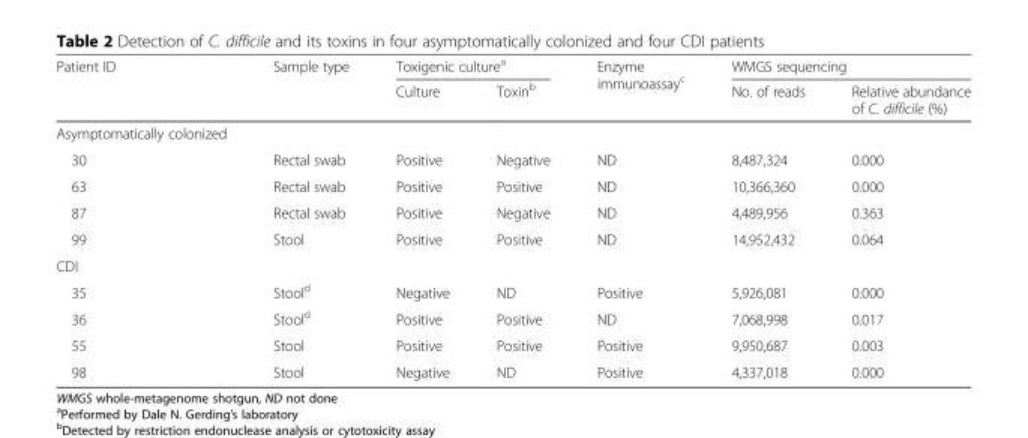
<table><thead><tr><td rowspan="2">Patient ID</td><td rowspan="2">Sample type</td><td colspan="2">Toxigenic culture<sup>a</sup></td><td rowspan="2">Enzyme immunoassay<sup>c</sup></td><td colspan="2">WMGS sequencing</td></tr><tr><td>Culture</td><td>Toxin<sup>b</sup></td><td>No. of reads</td><td>Relative abundance of C. difficile (%)</td></tr></thead><tbody><tr><td colspan="7">Asymptomatically colonized</td></tr><tr><td>30</td><td>Rectal swab</td><td>Positive</td><td>Negative</td><td>ND</td><td>8,487,324</td><td>0.000</td></tr><tr><td>63</td><td>Rectal swab</td><td>Positive</td><td>Positive</td><td>ND</td><td>10,366,360</td><td>0.000</td></tr><tr><td>87</td><td>Rectal swab</td><td>Positive</td><td>Negative</td><td>ND</td><td>4,489,956</td><td>0.363</td></tr><tr><td>99</td><td>Stool</td><td>Positive</td><td>Positive</td><td>ND</td><td>14,952,432</td><td>0.064</td></tr><tr><td colspan="7">CDI</td></tr><tr><td>35</td><td>Stool<sup>d</sup></td><td>Negative</td><td>ND</td><td>Positive</td><td>5,926,081</td><td>0.000</td></tr><tr><td>36</td><td>Stool<sup>d</sup></td><td>Positive</td><td>Positive</td><td>ND</td><td>7,068,998</td><td>0.017</td></tr><tr><td>55</td><td>Stool</td><td>Positive</td><td>Positive</td><td>Positive</td><td>9,950,687</td><td>0.003</td></tr><tr><td>98</td><td>Stool</td><td>Negative</td><td>ND</td><td>Positive</td><td>4,337,018</td><td>0.000</td></tr></tbody></table>